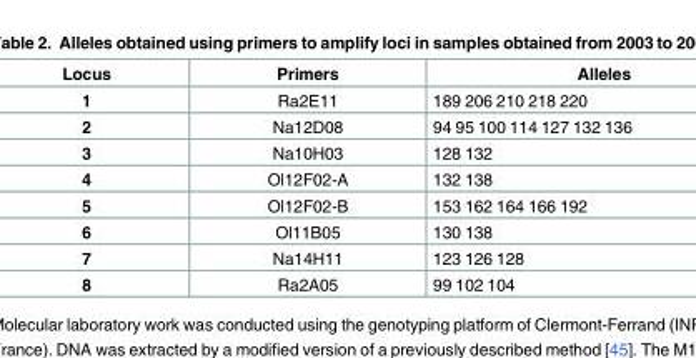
<table><thead><tr><td>Locus</td><td>Primers</td><td>Alleles</td></tr></thead><tbody><tr><td>1</td><td>Ra2E11</td><td>189 206 210 218 220</td></tr><tr><td>2</td><td>Na12D08</td><td>94 95 100 114 127 132 136</td></tr><tr><td>3</td><td>Na10H03</td><td>128 132</td></tr><tr><td>4</td><td>Ol12F02-A</td><td>132 138</td></tr><tr><td>5</td><td>Ol12F02-B</td><td>153 162 164 166 192</td></tr><tr><td>6</td><td>Ol11B05</td><td>130 138</td></tr><tr><td>7</td><td>Na14H11</td><td>123 126 128</td></tr><tr><td>8</td><td>Ra2A05</td><td>99 102 104</td></tr></tbody></table>